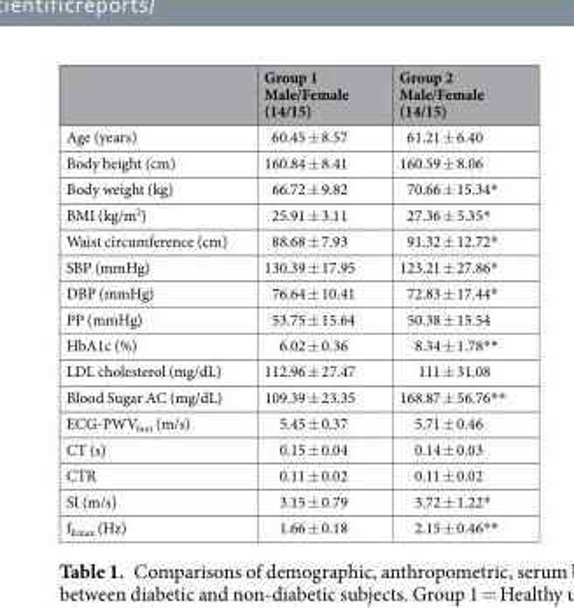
<table><thead><tr><td></td><td>Group 1 Male/Female (14/15)</td><td>Group 2 Male/Female (14/15)</td></tr></thead><tbody><tr><td>Age (years)</td><td>60.45 ± 8.57</td><td>61.21 ± 6.40</td></tr><tr><td>Body height (cm)</td><td>160.84 ± 8.41</td><td>160.59 ± 8.06</td></tr><tr><td>Body weight (kg)</td><td>66.72 ± 9.82</td><td>70.66 ± 15.34*</td></tr><tr><td>BMI (kg/m<sup>2</sup>)</td><td>25.91 ± 3.11</td><td>27.36 ± 5.35*</td></tr><tr><td>Waist circumference (cm)</td><td>88.68 ± 7.93</td><td>91.32 ± 12.72*</td></tr><tr><td>SBP (mmHg)</td><td>130.39 ± 17.95</td><td>123.21 ± 27.86*</td></tr><tr><td>DBP (mmHg)</td><td>76.64 ± 10.41</td><td>72.83 ± 17.44*</td></tr><tr><td>PP (mmHg)</td><td>53.75 ± 15.64</td><td>50.38 ± 15.54</td></tr><tr><td>HbA1c (%)</td><td>6.02 ± 0.36</td><td>8.34 ± 1.78**</td></tr><tr><td>LDL cholesterol (mg/dL)</td><td>112.96 ± 27.47</td><td>111 ± 31.08</td></tr><tr><td>Blood Sugar AC (mg/dL)</td><td>109.39 ± 23.35</td><td>168.87 ± 56.76**</td></tr><tr><td>ECG-PWV<sub>foot</sub> (m/s)</td><td>5.45 ± 0.37</td><td>5.71 ± 0.46</td></tr><tr><td>CT (s)</td><td>0.15 ± 0.04</td><td>0.14 ± 0.03</td></tr><tr><td>CTR</td><td>0.11 ± 0.02</td><td>0.11 ± 0.02</td></tr><tr><td>SI (m/s)</td><td>3.15 ± 0.79</td><td>3.72 ± 1.22*</td></tr><tr><td>f<sub>Emax</sub> (Hz)</td><td>1.66 ± 0.18</td><td>2.15 ± 0.46**</td></tr></tbody></table>